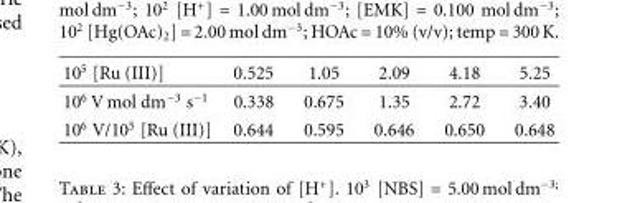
<table><thead><tr><td>10<sup>5</sup> [Ru (III)]</td><td>0.525</td><td>1.05</td><td>2.09</td><td>4.18</td><td>5.25</td></tr></thead><tbody><tr><td>10<sup>6</sup> V mol dm<sup>−3</sup> s<sup>−1</sup></td><td>0.338</td><td>0.675</td><td>1.35</td><td>2.72</td><td>3.40</td></tr><tr><td>10<sup>6</sup> V/10<sup>5</sup> [Ru (III)]</td><td>0.644</td><td>0.595</td><td>0.646</td><td>0.650</td><td>0.648</td></tr></tbody></table>